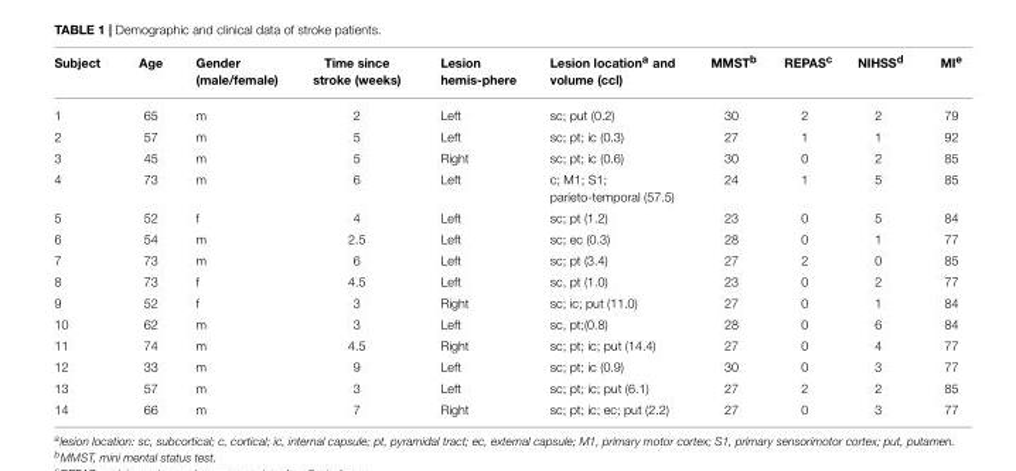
<table><thead><tr><td>Subject</td><td>Age</td><td>Gender (male/female)</td><td>Time since stroke (weeks)</td><td>Lesion hemis-phere</td><td>Lesion location<sup>a</sup> and volume (ccl)</td><td>MMST<sup>b</sup></td><td>REPAS<sup>c</sup></td><td>NIHSS<sup>d</sup></td><td>MI<sup>e</sup></td></tr></thead><tbody><tr><td>1</td><td>65</td><td>m</td><td>2</td><td>Left</td><td>sc; put (0.2)</td><td>30</td><td>2</td><td>2</td><td>79</td></tr><tr><td>2</td><td>57</td><td>m</td><td>5</td><td>Left</td><td>sc; pt; ic (0.3)</td><td>27</td><td>1</td><td>1</td><td>92</td></tr><tr><td>3</td><td>45</td><td>m</td><td>5</td><td>Right</td><td>sc; pt; ic (0.6)</td><td>30</td><td>0</td><td>2</td><td>85</td></tr><tr><td>4</td><td>73</td><td>m</td><td>6</td><td>Left</td><td>c; M1; S1; parieto-temporal (57.5)</td><td>24</td><td>1</td><td>5</td><td>85</td></tr><tr><td>5</td><td>52</td><td>f</td><td>4</td><td>Left</td><td>sc; pt (1.2)</td><td>23</td><td>0</td><td>5</td><td>84</td></tr><tr><td>6</td><td>54</td><td>m</td><td>2.5</td><td>Left</td><td>sc; ec (0.3)</td><td>28</td><td>0</td><td>1</td><td>77</td></tr><tr><td>7</td><td>73</td><td>m</td><td>6</td><td>Left</td><td>sc; pt (3.4)</td><td>27</td><td>2</td><td>0</td><td>85</td></tr><tr><td>8</td><td>73</td><td>f</td><td>4.5</td><td>Left</td><td>sc, pt (1.0)</td><td>23</td><td>0</td><td>2</td><td>77</td></tr><tr><td>9</td><td>52</td><td>f</td><td>3</td><td>Right</td><td>sc; ic; put (11.0)</td><td>27</td><td>0</td><td>1</td><td>84</td></tr><tr><td>10</td><td>62</td><td>m</td><td>3</td><td>Left</td><td>sc, pt;(0.8)</td><td>28</td><td>0</td><td>6</td><td>84</td></tr><tr><td>11</td><td>74</td><td>m</td><td>4.5</td><td>Right</td><td>sc; pt; ic; put (14.4)</td><td>27</td><td>0</td><td>4</td><td>77</td></tr><tr><td>12</td><td>33</td><td>m</td><td>9</td><td>Left</td><td>sc; pt; ic (0.9)</td><td>30</td><td>0</td><td>3</td><td>77</td></tr><tr><td>13</td><td>57</td><td>m</td><td>3</td><td>Left</td><td>sc; pt; ic; put (6.1)</td><td>27</td><td>2</td><td>2</td><td>85</td></tr><tr><td>14</td><td>66</td><td>m</td><td>7</td><td>Right</td><td>sc; pt; ic; ec; put (2.2)</td><td>27</td><td>0</td><td>3</td><td>77</td></tr></tbody></table>